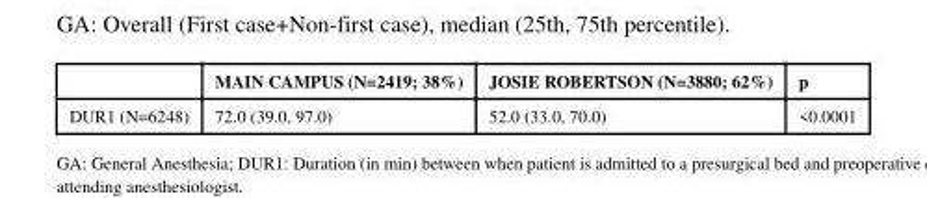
<table><thead><tr><td></td><td>MAIN CAMPUS (N=2419; 38%)</td><td>JOSIE ROBERTSON (N=3880; 62%)</td><td>p</td></tr></thead><tbody><tr><td>DUR1 (N=6248)</td><td>72.0 (39.0, 97.0)</td><td>52.0 (33.0, 70.0)</td><td>&lt;0.0001</td></tr></tbody></table>